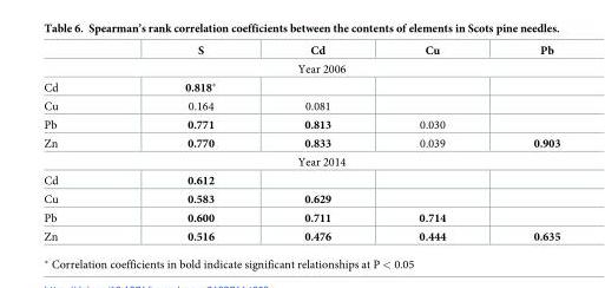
<table><thead><tr><td></td><td>S</td><td>Cd</td><td>Cu</td><td>Pb</td></tr></thead><tbody><tr><td colspan="5">Year 2006</td></tr><tr><td>Cd</td><td>0.818*</td><td></td><td></td><td></td></tr><tr><td>Cu</td><td>0.164</td><td>0.081</td><td></td><td></td></tr><tr><td>Pb</td><td>0.771</td><td>0.813</td><td>0.030</td><td></td></tr><tr><td>Zn</td><td>0.770</td><td>0.833</td><td>0.039</td><td>0.903</td></tr><tr><td colspan="5">Year 2014</td></tr><tr><td>Cd</td><td>0.612</td><td></td><td></td><td></td></tr><tr><td>Cu</td><td>0.583</td><td>0.629</td><td></td><td></td></tr><tr><td>Pb</td><td>0.600</td><td>0.711</td><td>0.714</td><td></td></tr><tr><td>Zn</td><td>0.516</td><td>0.476</td><td>0.444</td><td>0.635</td></tr></tbody></table>